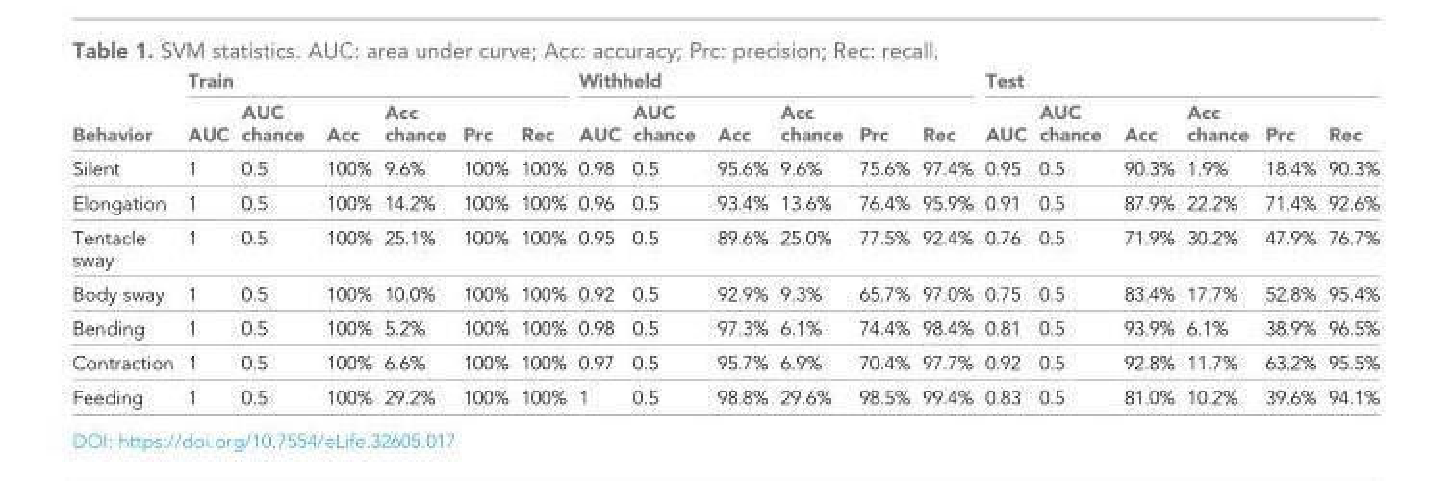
<table><thead><tr><td rowspan="2">Behavior</td><td colspan="6">Train</td><td colspan="6">Withheld</td><td colspan="6">Test</td></tr><tr><td>AUC</td><td>AUC chance</td><td>Acc</td><td>Acc chance</td><td>Prc</td><td>Rec</td><td>AUC</td><td>AUC chance</td><td>Acc</td><td>Acc chance</td><td>Prc</td><td>Rec</td><td>AUC</td><td>AUC chance</td><td>Acc</td><td>Acc chance</td><td>Prc</td><td>Rec</td></tr></thead><tbody><tr><td>Silent</td><td>1</td><td>0.5</td><td>100%</td><td>9.6%</td><td>100%</td><td>100%</td><td>0.98</td><td>0.5</td><td>95.6%</td><td>9.6%</td><td>75.6%</td><td>97.4%</td><td>0.95</td><td>0.5</td><td>90.3%</td><td>1.9%</td><td>18.4%</td><td>90.3%</td></tr><tr><td>Elongation</td><td>1</td><td>0.5</td><td>100%</td><td>14.2%</td><td>100%</td><td>100%</td><td>0.96</td><td>0.5</td><td>93.4%</td><td>13.6%</td><td>76.4%</td><td>95.9%</td><td>0.91</td><td>0.5</td><td>87.9%</td><td>22.2%</td><td>71.4%</td><td>92.6%</td></tr><tr><td>Tentacle sway</td><td>1</td><td>0.5</td><td>100%</td><td>25.1%</td><td>100%</td><td>100%</td><td>0.95</td><td>0.5</td><td>89.6%</td><td>25.0%</td><td>77.5%</td><td>92.4%</td><td>0.76</td><td>0.5</td><td>71.9%</td><td>30.2%</td><td>47.9%</td><td>76.7%</td></tr><tr><td>Body sway</td><td>1</td><td>0.5</td><td>100%</td><td>10.0%</td><td>100%</td><td>100%</td><td>0.92</td><td>0.5</td><td>92.9%</td><td>9.3%</td><td>65.7%</td><td>97.0%</td><td>0.75</td><td>0.5</td><td>83.4%</td><td>17.7%</td><td>52.8%</td><td>95.4%</td></tr><tr><td>Bending</td><td>1</td><td>0.5</td><td>100%</td><td>5.2%</td><td>100%</td><td>100%</td><td>0.98</td><td>0.5</td><td>97.3%</td><td>6.1%</td><td>74.4%</td><td>98.4%</td><td>0.81</td><td>0.5</td><td>93.9%</td><td>6.1%</td><td>38.9%</td><td>96.5%</td></tr><tr><td>Contraction</td><td>1</td><td>0.5</td><td>100%</td><td>6.6%</td><td>100%</td><td>100%</td><td>0.97</td><td>0.5</td><td>95.7%</td><td>6.9%</td><td>70.4%</td><td>97.7%</td><td>0.92</td><td>0.5</td><td>92.8%</td><td>11.7%</td><td>63.2%</td><td>95.5%</td></tr><tr><td>Feeding</td><td>1</td><td>0.5</td><td>100%</td><td>29.2%</td><td>100%</td><td>100%</td><td>1</td><td>0.5</td><td>98.8%</td><td>29.6%</td><td>98.5%</td><td>99.4%</td><td>0.83</td><td>0.5</td><td>81.0%</td><td>10.2%</td><td>39.6%</td><td>94.1%</td></tr></tbody></table>